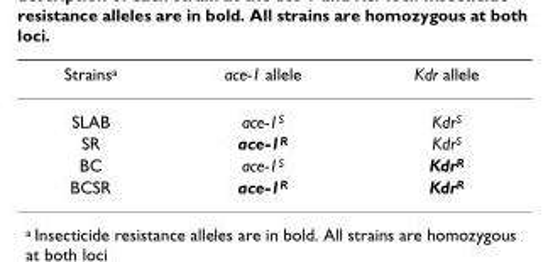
<table><thead><tr><td>Strains<sup>a</sup></td><td>ace-1 allele</td><td>Kdr allele</td></tr></thead><tbody><tr><td>SLAB</td><td>ace-1<sup>S</sup></td><td>Kdr<sup>S</sup></td></tr><tr><td>SR</td><td>ace-1<sup>R</sup></td><td>Kdr<sup>S</sup></td></tr><tr><td>BC</td><td>ace-1<sup>S</sup></td><td>Kdr<sup>R</sup></td></tr><tr><td>BCSR</td><td>ace-1<sup>R</sup></td><td>Kdr<sup>R</sup></td></tr></tbody></table>